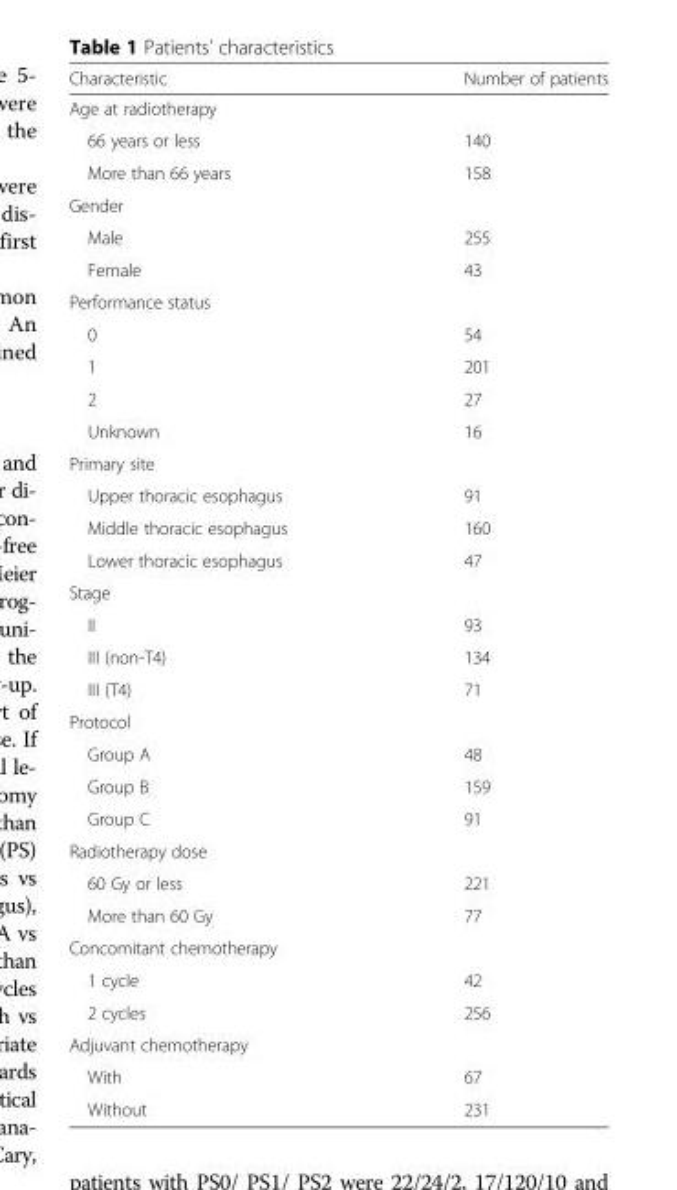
<table><thead><tr><td>Characteristic</td><td>Number of patients</td></tr></thead><tbody><tr><td colspan="2">Age at radiotherapy</td></tr><tr><td>66 years or less</td><td>140</td></tr><tr><td>More than 66 years</td><td>158</td></tr><tr><td colspan="2">Gender</td></tr><tr><td>Male</td><td>255</td></tr><tr><td>Female</td><td>43</td></tr><tr><td colspan="2">Performance status</td></tr><tr><td>0</td><td>54</td></tr><tr><td>1</td><td>201</td></tr><tr><td>2</td><td>27</td></tr><tr><td>Unknown</td><td>16</td></tr><tr><td colspan="2">Primary site</td></tr><tr><td>Upper thoracic esophagus</td><td>91</td></tr><tr><td>Middle thoracic esophagus</td><td>160</td></tr><tr><td>Lower thoracic esophagus</td><td>47</td></tr><tr><td colspan="2">Stage</td></tr><tr><td>II</td><td>93</td></tr><tr><td>III (non-T4)</td><td>134</td></tr><tr><td>III (T4)</td><td>71</td></tr><tr><td colspan="2">Protocol</td></tr><tr><td>Group A</td><td>48</td></tr><tr><td>Group B</td><td>159</td></tr><tr><td>Group C</td><td>91</td></tr><tr><td colspan="2">Radiotherapy dose</td></tr><tr><td>60 Gy or less</td><td>221</td></tr><tr><td>More than 60 Gy</td><td>77</td></tr><tr><td colspan="2">Concomitant chemotherapy</td></tr><tr><td>1 cycle</td><td>42</td></tr><tr><td>2 cycles</td><td>256</td></tr><tr><td colspan="2">Adjuvant chemotherapy</td></tr><tr><td>With</td><td>67</td></tr><tr><td>Without</td><td>231</td></tr></tbody></table>